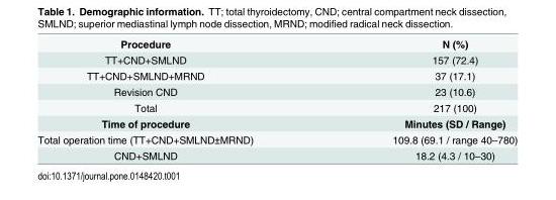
<table><tbody><tr><td>Procedure</td><td>N (%)</td></tr><tr><td>TT+CND+SMLND</td><td>157 (72.4)</td></tr><tr><td>TT+CND+SMLND+MRND</td><td>37 (17.1)</td></tr><tr><td>Revision CND</td><td>23 (10.6)</td></tr><tr><td>Total</td><td>217 (100)</td></tr><tr><td>Time of procedure</td><td>Minutes (SD / Range)</td></tr><tr><td>Total operation time (TT+CND+SMLND±MRND)</td><td>109.8 (69.1 / range 40–780)</td></tr><tr><td>CND+SMLND</td><td>18.2 (4.3 / 10–30)</td></tr></tbody></table>